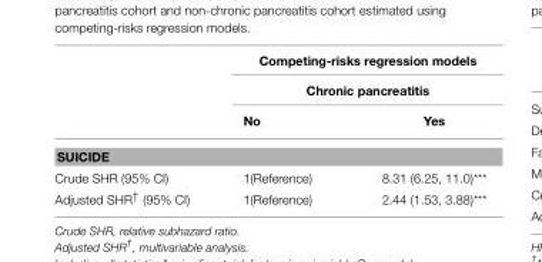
<table><thead><tr><td rowspan="3"></td><td rowspan="2" colspan="2">Competing-risks regression models Chronic pancreatitis</td></tr><tr></tr><tr><td>No</td><td>Yes</td></tr></thead><tbody><tr><td colspan="3">SUICIDE</td></tr><tr><td>Crude SHR (95% CI)</td><td>1(Reference)</td><td>8.31 (6.25, 11.0)***</td></tr><tr><td>Adjusted SHR<sup>†</sup> (95% CI)</td><td>1(Reference)</td><td>2.44 (1.53, 3.88)***</td></tr></tbody></table>